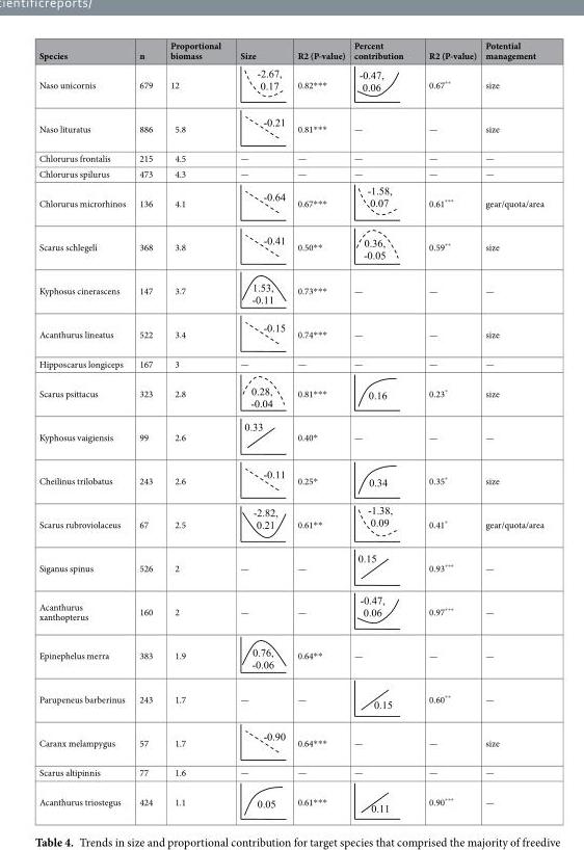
<table><thead><tr><td>Species</td><td>n</td><td>Proportional biomass</td><td>Size</td><td>R2 (P-value)</td><td>Percent contribution</td><td>R2 (P-value)</td><td>Potential management</td></tr></thead><tbody><tr><td>Naso unicornis</td><td>679</td><td>12</td><td></td><td>0.82***</td><td></td><td>0.67**</td><td>size</td></tr><tr><td>Naso lituratus</td><td>886</td><td>5.8</td><td></td><td>0.81***</td><td>—</td><td>—</td><td>size</td></tr><tr><td>Chlorurus frontalis</td><td>215</td><td>4.5</td><td>—</td><td>—</td><td>—</td><td>—</td><td>—</td></tr><tr><td>Chlorurus spilurus</td><td>473</td><td>4.3</td><td>—</td><td>—</td><td>—</td><td>—</td><td>—</td></tr><tr><td>Chlorurus microrhinos</td><td>136</td><td>4.1</td><td></td><td>0.67***</td><td></td><td>0.61***</td><td>gear/quota/area</td></tr><tr><td>Scarus schlegeli</td><td>368</td><td>3.8</td><td></td><td>0.50**</td><td></td><td>0.59**</td><td>size</td></tr><tr><td>Kyphosus cinerascens</td><td>147</td><td>3.7</td><td></td><td>0.73***</td><td>—</td><td>—</td><td>—</td></tr><tr><td>Acanthurus lineatus</td><td>522</td><td>3.4</td><td></td><td>0.74***</td><td>—</td><td>—</td><td>size</td></tr><tr><td>Hipposcarus longiceps</td><td>167</td><td>3</td><td>—</td><td>—</td><td>—</td><td>—</td><td>—</td></tr><tr><td>Scarus psittacus</td><td>323</td><td>2.8</td><td></td><td>0.81***</td><td></td><td>0.23*</td><td>size</td></tr><tr><td>Kyphosus vaigiensis</td><td>99</td><td>2.6</td><td></td><td>0.40*</td><td>—</td><td>—</td><td>—</td></tr><tr><td>Cheilinus trilobatus</td><td>243</td><td>2.6</td><td></td><td>0.25*</td><td></td><td>0.35*</td><td>size</td></tr><tr><td>Scarus rubroviolaceus</td><td>67</td><td>2.5</td><td></td><td>0.61**</td><td></td><td>0.41*</td><td>gear/quota/area</td></tr><tr><td>Siganus spinus</td><td>526</td><td>2</td><td>—</td><td>—</td><td></td><td>0.93***</td><td>—</td></tr><tr><td>Acanthurus xanthopterus</td><td>160</td><td>2</td><td>—</td><td>—</td><td></td><td>0.97***</td><td>—</td></tr><tr><td>Epinephelus merra</td><td>383</td><td>1.9</td><td></td><td>0.64**</td><td>—</td><td>—</td><td>—</td></tr><tr><td>Parupeneus barberinus</td><td>243</td><td>1.7</td><td>—</td><td>—</td><td></td><td>0.60**</td><td>—</td></tr><tr><td>Caranx melampygus</td><td>57</td><td>1.7</td><td></td><td>0.64***</td><td>—</td><td>—</td><td>size</td></tr><tr><td>Scarus altipinnis</td><td>77</td><td>1.6</td><td>—</td><td>—</td><td>—</td><td>—</td><td>—</td></tr><tr><td>Acanthurus triostegus</td><td>424</td><td>1.1</td><td></td><td>0.61***</td><td></td><td>0.90***</td><td>—</td></tr></tbody></table>